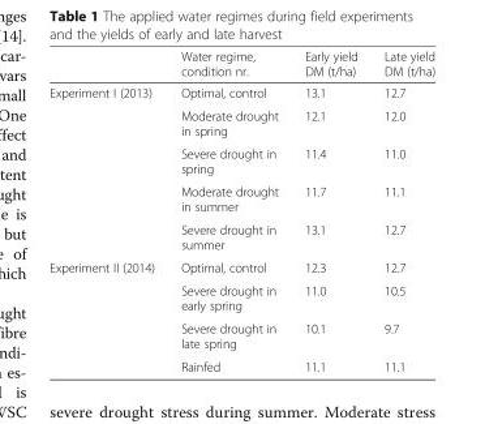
<table><thead><tr><td></td><td>Water regime, condition nr.</td><td>Early yield DM (t/ha)</td><td>Late yield DM (t/ha)</td></tr></thead><tbody><tr><td rowspan="5">Experiment I (2013)</td><td>Optimal, control</td><td>13.1</td><td>12.7</td></tr><tr><td>Moderate drought in spring</td><td>12.1</td><td>12.0</td></tr><tr><td>Severe drought in spring</td><td>11.4</td><td>11.0</td></tr><tr><td>Moderate drought in summer</td><td>11.7</td><td>11.1</td></tr><tr><td>Severe drought in summer</td><td>13.1</td><td>12.7</td></tr><tr><td rowspan="4">Experiment II (2014)</td><td>Optimal, control</td><td>12.3</td><td>12.7</td></tr><tr><td>Severe drought in early spring</td><td>11.0</td><td>10.5</td></tr><tr><td>Severe drought in late spring</td><td>10.1</td><td>9.7</td></tr><tr><td>Rainfed</td><td>11.1</td><td>11.1</td></tr></tbody></table>